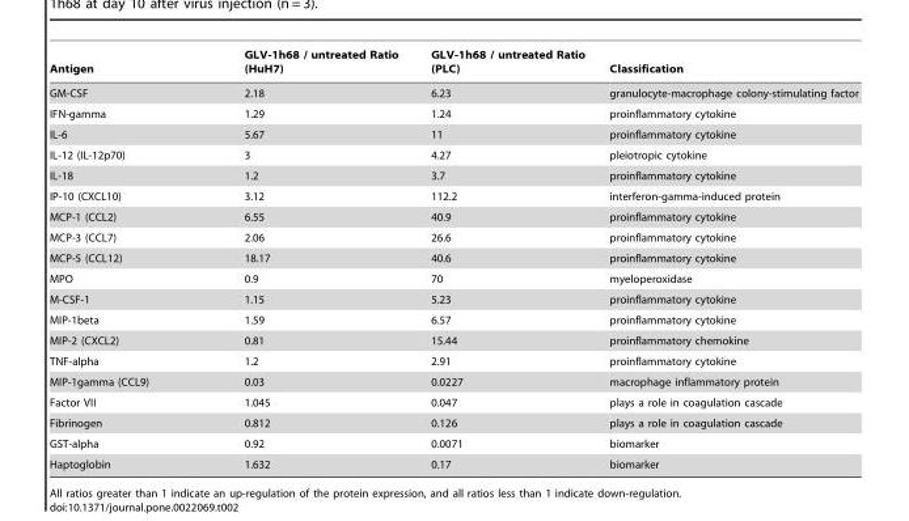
<table><thead><tr><td>Antigen</td><td>GLV-1h68 / untreated Ratio (HuH7)</td><td>GLV-1h68 / untreated Ratio (PLC)</td><td>Classification</td></tr></thead><tbody><tr><td>GM-CSF</td><td>2.18</td><td>6.23</td><td>granulocyte-macrophage colony-stimulating factor</td></tr><tr><td>IFN-gamma</td><td>1.29</td><td>1.24</td><td>proinflammatory cytokine</td></tr><tr><td>IL-6</td><td>5.67</td><td>11</td><td>proinflammatory cytokine</td></tr><tr><td>IL-12 (IL-12p70)</td><td>3</td><td>4.27</td><td>pleiotropic cytokine</td></tr><tr><td>IL-18</td><td>1.2</td><td>3.7</td><td>proinflammatory cytokine</td></tr><tr><td>IP-10 (CXCL10)</td><td>3.12</td><td>112.2</td><td>interferon-gamma-induced protein</td></tr><tr><td>MCP-1 (CCL2)</td><td>6.55</td><td>40.9</td><td>proinflammatory cytokine</td></tr><tr><td>MCP-3 (CCL7)</td><td>2.06</td><td>26.6</td><td>proinflammatory cytokine</td></tr><tr><td>MCP-5 (CCL12)</td><td>18.17</td><td>40.6</td><td>proinflammatory cytokine</td></tr><tr><td>MPO</td><td>0.9</td><td>70</td><td>myeloperoxidase</td></tr><tr><td>M-CSF-1</td><td>1.15</td><td>5.23</td><td>proinflammatory cytokine</td></tr><tr><td>MIP-1beta</td><td>1.59</td><td>6.57</td><td>proinflammatory cytokine</td></tr><tr><td>MIP-2 (CXCL2)</td><td>0.81</td><td>15.44</td><td>proinflammatory chemokine</td></tr><tr><td>TNF-alpha</td><td>1.2</td><td>2.91</td><td>proinflammatory cytokine</td></tr><tr><td>MIP-1gamma (CCL9)</td><td>0.03</td><td>0.0227</td><td>macrophage inflammatory protein</td></tr><tr><td>Factor VII</td><td>1.045</td><td>0.047</td><td>plays a role in coagulation cascade</td></tr><tr><td>Fibrinogen</td><td>0.812</td><td>0.126</td><td>plays a role in coagulation cascade</td></tr><tr><td>GST-alpha</td><td>0.92</td><td>0.0071</td><td>biomarker</td></tr><tr><td>Haptoglobin</td><td>1.632</td><td>0.17</td><td>biomarker</td></tr></tbody></table>